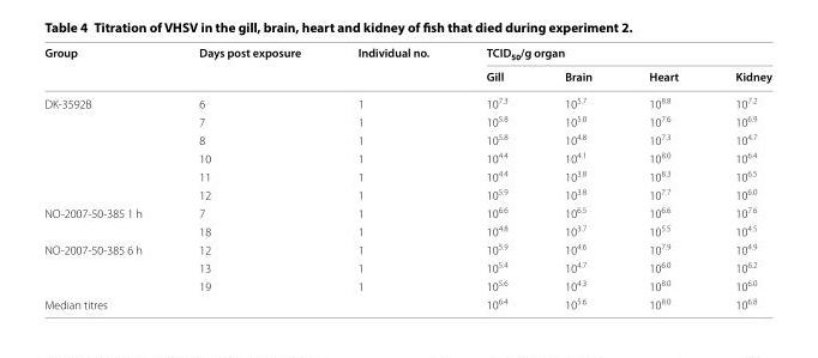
<table><thead><tr><td rowspan="2">Group</td><td rowspan="2">Days post exposure</td><td rowspan="2">Individual no.</td><td colspan="4">TCID<sub>50</sub>/g organ</td></tr><tr><td>Gill</td><td>Brain</td><td>Heart</td><td>Kidney</td></tr></thead><tbody><tr><td rowspan="6">DK‑3592B</td><td>6</td><td>1</td><td>10<sup>7.3</sup></td><td>10<sup>5.7</sup></td><td>10<sup>8.8</sup></td><td>10<sup>7.2</sup></td></tr><tr><td>7</td><td>1</td><td>10<sup>5.8</sup></td><td>10<sup>5.0</sup></td><td>10<sup>7.6</sup></td><td>10<sup>6.9</sup></td></tr><tr><td>8</td><td>1</td><td>10<sup>5.8</sup></td><td>10<sup>4.8</sup></td><td>10<sup>7.3</sup></td><td>10<sup>4.7</sup></td></tr><tr><td>10</td><td>1</td><td>10<sup>4.4</sup></td><td>10<sup>4.1</sup></td><td>10<sup>8.0</sup></td><td>10<sup>6.4</sup></td></tr><tr><td>11</td><td>1</td><td>10<sup>4.4</sup></td><td>10<sup>3.8</sup></td><td>10<sup>8.3</sup></td><td>10<sup>6.5</sup></td></tr><tr><td>12</td><td>1</td><td>10<sup>5.9</sup></td><td>10<sup>3.8</sup></td><td>10<sup>7.7</sup></td><td>10<sup>6.0</sup></td></tr><tr><td rowspan="2">NO‑2007‑50‑385 1 h</td><td>7</td><td>1</td><td>10<sup>6.6</sup></td><td>10<sup>6.5</sup></td><td>10<sup>6.6</sup></td><td>10<sup>7.6</sup></td></tr><tr><td>18</td><td>1</td><td>10<sup>4.8</sup></td><td>10<sup>3.7</sup></td><td>10<sup>5.5</sup></td><td>10<sup>4.5</sup></td></tr><tr><td rowspan="3">NO‑2007‑50‑385 6 h</td><td>12</td><td>1</td><td>10<sup>5.9</sup></td><td>10<sup>4.6</sup></td><td>10<sup>7.9</sup></td><td>10<sup>4.9</sup></td></tr><tr><td>13</td><td>1</td><td>10<sup>5.4</sup></td><td>10<sup>4.7</sup></td><td>10<sup>6.0</sup></td><td>10<sup>6.2</sup></td></tr><tr><td>19</td><td>1</td><td>10<sup>5.6</sup></td><td>10<sup>4.3</sup></td><td>10<sup>8.0</sup></td><td>10<sup>6.0</sup></td></tr><tr><td>Median titres</td><td></td><td></td><td>10<sup>6.4</sup></td><td>10<sup>5.6</sup></td><td>10<sup>8.0</sup></td><td>10<sup>6.8</sup></td></tr></tbody></table>